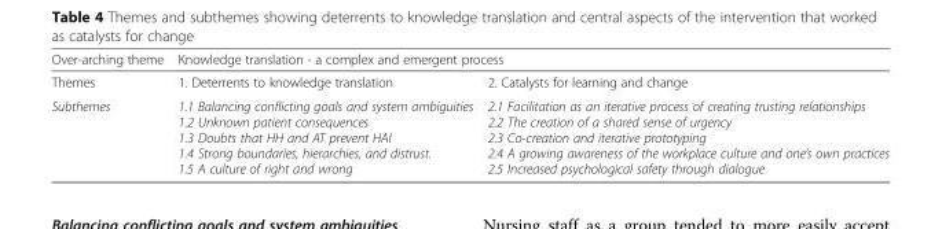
<table><thead><tr><td rowspan="2">Over-arching theme Themes</td><td colspan="2">Knowledge translation - a complex and emergent process</td></tr><tr><td>1. Deterrents to knowledge translation</td><td>2. Catalysts for learning and change</td></tr></thead><tbody><tr><td>Subthemes</td><td>1.1 Balancing conflicting goals and system ambiguities 1.2 Unknown patient consequences 1.3 Doubts that HH and AT prevent HAI 1.4 Strong boundaries, hierarchies, and distrust. 1.5 A culture of right and wrong</td><td>2.1 Facilitation as an iterative process of creating trusting relationships 2.2 The creation of a shared sense of urgency 2.3 Co-creation and iterative prototyping 2.4 A growing awareness of the workplace culture and one’s own practices 2.5 Increased psychological safety through dialogue</td></tr></tbody></table>